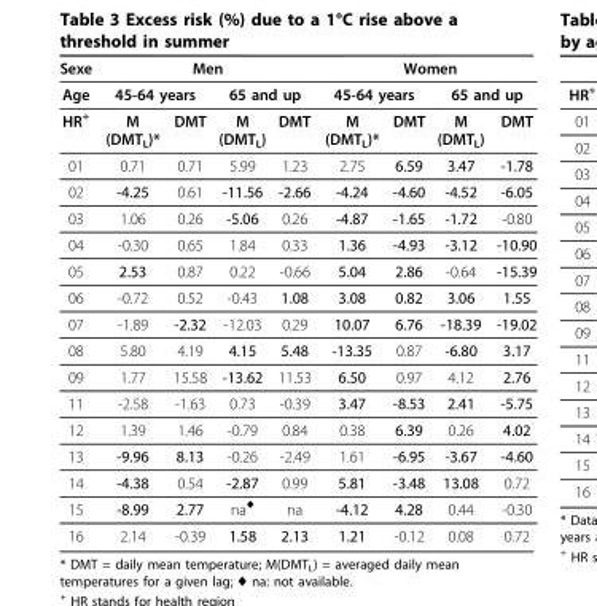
<table><thead><tr><td rowspan="3">Sexe Age HR+</td><td colspan="4">Men</td><td colspan="4">Women</td></tr><tr><td colspan="2">45-64 years</td><td colspan="2">65 and up</td><td colspan="2">45-64 years</td><td colspan="2">65 and up</td></tr><tr><td>M (DMTL)*</td><td>DMT</td><td>M (DMT<sub>L</sub>)</td><td>DMT</td><td>M (DMT<sub>L</sub>)*</td><td>DMT</td><td>M (DMT<sub>L</sub>)</td><td>DMT</td></tr></thead><tbody><tr><td>01</td><td>0.71</td><td>0.71</td><td>5.99</td><td>1.23</td><td>2.75</td><td>6.59</td><td>3.47</td><td>-1.78</td></tr><tr><td>02</td><td>-4.25</td><td>0.61</td><td>-11.56</td><td>-2.66</td><td>-4.24</td><td>-4.60</td><td>-4.52</td><td>-6.05</td></tr><tr><td>03</td><td>1.06</td><td>0.26</td><td>-5.06</td><td>0.26</td><td>-4.87</td><td>-1.65</td><td>-1.72</td><td>-0.80</td></tr><tr><td>04</td><td>-0.30</td><td>0.65</td><td>1.84</td><td>0.33</td><td>1.36</td><td>-4.93</td><td>-3.12</td><td>-10.90</td></tr><tr><td>05</td><td>2.53</td><td>0.87</td><td>0.22</td><td>-0.66</td><td>5.04</td><td>2.86</td><td>-0.64</td><td>-15.39</td></tr><tr><td>06</td><td>-0.72</td><td>0.52</td><td>-0.43</td><td>1.08</td><td>3.08</td><td>0.82</td><td>3.06</td><td>1.55</td></tr><tr><td>07</td><td>-1.89</td><td>-2.32</td><td>-12.03</td><td>0.29</td><td>10.07</td><td>6.76</td><td>-18.39</td><td>-19.02</td></tr><tr><td>08</td><td>5.80</td><td>4.19</td><td>4.15</td><td>5.48</td><td>-13.35</td><td>0.87</td><td>-6.80</td><td>3.17</td></tr><tr><td>09</td><td>1.77</td><td>15.58</td><td>-13.62</td><td>11.53</td><td>6.50</td><td>0.97</td><td>4.12</td><td>2.76</td></tr><tr><td>11</td><td>-2.58</td><td>-1.63</td><td>0.73</td><td>-0.39</td><td>3.47</td><td>-8.53</td><td>2.41</td><td>-5.75</td></tr><tr><td>12</td><td>1.39</td><td>1.46</td><td>-0.79</td><td>0.84</td><td>0.38</td><td>6.39</td><td>0.26</td><td>4.02</td></tr><tr><td>13</td><td>-9.96</td><td>8.13</td><td>-0.26</td><td>-2.49</td><td>1.61</td><td>-6.95</td><td>-3.67</td><td>-4.60</td></tr><tr><td>14</td><td>-4.38</td><td>0.54</td><td>-2.87</td><td>0.99</td><td>5.81</td><td>-3.48</td><td>13.08</td><td>0.72</td></tr><tr><td>15</td><td>-8.99</td><td>2.77</td><td>na<sup>♦</sup></td><td>na</td><td>-4.12</td><td>4.28</td><td>0.44</td><td>-0.30</td></tr><tr><td>16</td><td>2.14</td><td>-0.39</td><td>1.58</td><td>2.13</td><td>1.21</td><td>-0.12</td><td>0.08</td><td>0.72</td></tr></tbody></table>